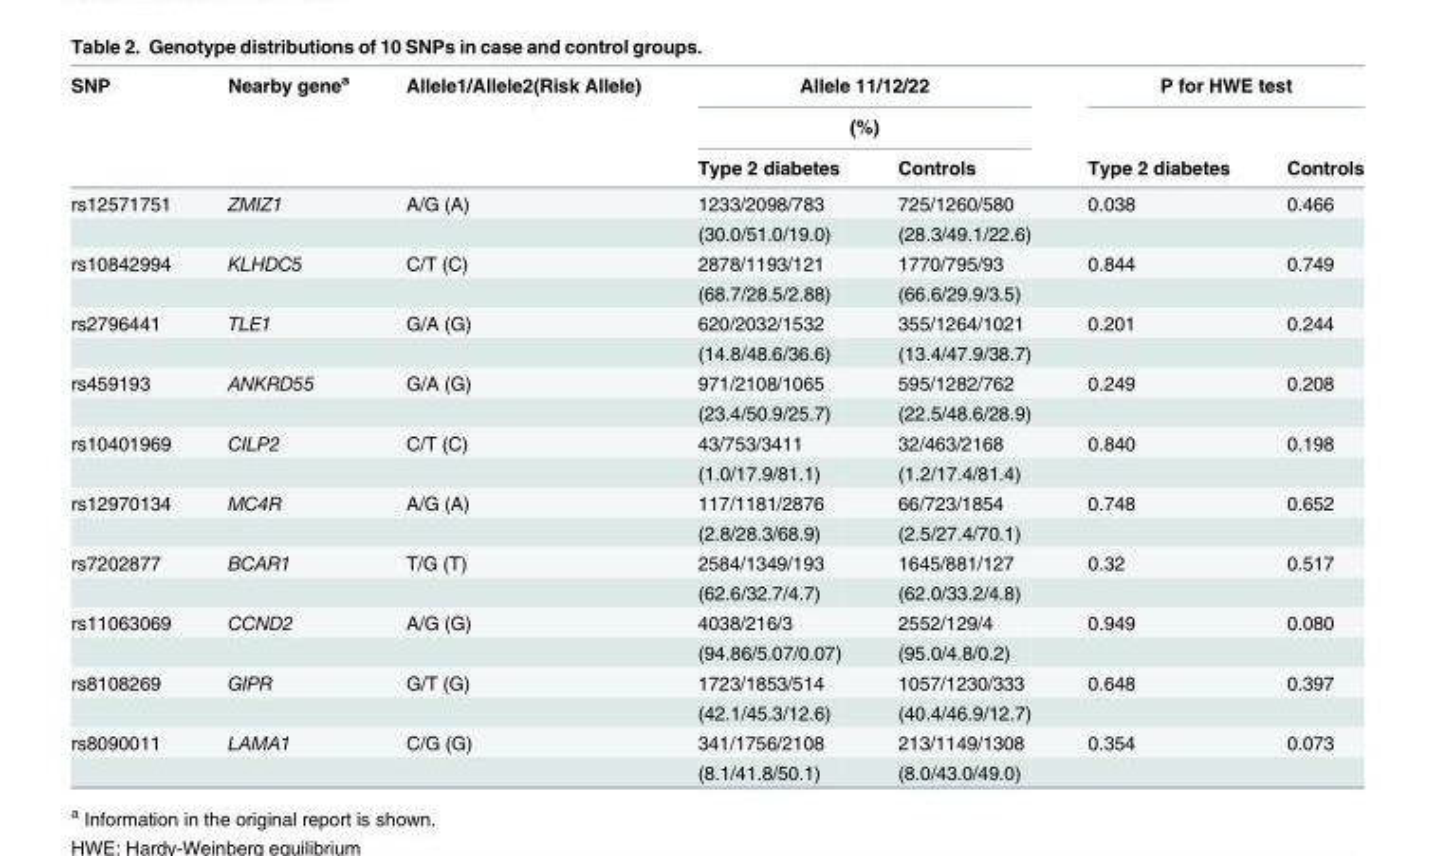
<table><thead><tr><td rowspan="3">SNP</td><td rowspan="3">Nearby gene<sup>a</sup></td><td rowspan="3">Allele1/Allele2(Risk Allele)</td><td rowspan="2" colspan="2">Allele 11/12/22 (%)</td><td colspan="2">P for HWE test</td></tr><tr><td rowspan="2">Type 2 diabetes</td><td rowspan="2">Controls</td></tr><tr><td>Type 2 diabetes</td><td>Controls</td></tr></thead><tbody><tr><td rowspan="2">rs12571751</td><td>ZMIZ1</td><td>A/G (A)</td><td>1233/2098/783</td><td>725/1260/580</td><td>0.038</td><td>0.466</td></tr><tr><td></td><td></td><td>(30.0/51.0/19.0)</td><td>(28.3/49.1/22.6)</td><td></td><td></td></tr><tr><td rowspan="2">rs10842994</td><td>KLHDC5</td><td>C/T (C)</td><td>2878/1193/121</td><td>1770/795/93</td><td>0.844</td><td>0.749</td></tr><tr><td></td><td></td><td>(68.7/28.5/2.88)</td><td>(66.6/29.9/3.5)</td><td></td><td></td></tr><tr><td rowspan="2">rs2796441</td><td>TLE1</td><td>G/A (G)</td><td>620/2032/1532</td><td>355/1264/1021</td><td>0.201</td><td>0.244</td></tr><tr><td></td><td></td><td>(14.8/48.6/36.6)</td><td>(13.4/47.9/38.7)</td><td></td><td></td></tr><tr><td rowspan="2">rs459193</td><td>ANKRD55</td><td>G/A (G)</td><td>971/2108/1065</td><td>595/1282/762</td><td>0.249</td><td>0.208</td></tr><tr><td></td><td></td><td>(23.4/50.9/25.7)</td><td>(22.5/48.6/28.9)</td><td></td><td></td></tr><tr><td rowspan="2">rs10401969</td><td>CILP2</td><td>C/T (C)</td><td>43/753/3411</td><td>32/463/2168</td><td>0.840</td><td>0.198</td></tr><tr><td></td><td></td><td>(1.0/17.9/81.1)</td><td>(1.2/17.4/81.4)</td><td></td><td></td></tr><tr><td rowspan="2">rs12970134</td><td>MC4R</td><td>A/G (A)</td><td>117/1181/2876</td><td>66/723/1854</td><td>0.748</td><td>0.652</td></tr><tr><td></td><td></td><td>(2.8/28.3/68.9)</td><td>(2.5/27.4/70.1)</td><td></td><td></td></tr><tr><td rowspan="2">rs7202877</td><td>BCAR1</td><td>T/G (T)</td><td>2584/1349/193</td><td>1645/881/127</td><td>0.32</td><td>0.517</td></tr><tr><td></td><td></td><td>(62.6/32.7/4.7)</td><td>(62.0/33.2/4.8)</td><td></td><td></td></tr><tr><td rowspan="2">rs11063069</td><td>CCND2</td><td>A/G (G)</td><td>4038/216/3</td><td>2552/129/4</td><td>0.949</td><td>0.080</td></tr><tr><td></td><td></td><td>(94.86/5.07/0.07)</td><td>(95.0/4.8/0.2)</td><td></td><td></td></tr><tr><td rowspan="2">rs8108269</td><td>GIPR</td><td>G/T (G)</td><td>1723/1853/514</td><td>1057/1230/333</td><td>0.648</td><td>0.397</td></tr><tr><td></td><td></td><td>(42.1/45.3/12.6)</td><td>(40.4/46.9/12.7)</td><td></td><td></td></tr><tr><td rowspan="2">rs8090011</td><td>LAMA1</td><td>C/G (G)</td><td>341/1756/2108</td><td>213/1149/1308</td><td>0.354</td><td>0.073</td></tr><tr><td></td><td></td><td>(8.1/41.8/50.1)</td><td>(8.0/43.0/49.0)</td><td></td><td></td></tr></tbody></table>